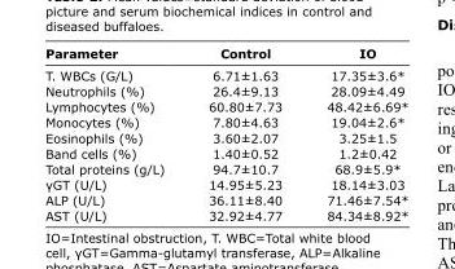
<table><thead><tr><td>Parameter</td><td>Control</td><td>IO</td></tr></thead><tbody><tr><td>T. WBCs (G/L)</td><td>6.71±1.63</td><td>17.35±3.6*</td></tr><tr><td>Neutrophils (%)</td><td>26.4±9.13</td><td>28.09±4.49</td></tr><tr><td>Lymphocytes (%)</td><td>60.80±7.73</td><td>48.42±6.69*</td></tr><tr><td>Monocytes (%)</td><td>7.80±4.63</td><td>19.04±2.6*</td></tr><tr><td>Eosinophils (%)</td><td>3.60±2.07</td><td>3.25±1.5</td></tr><tr><td>Band cells (%)</td><td>1.40±0.52</td><td>1.2±0.42</td></tr><tr><td>Total proteins (g/L)</td><td>94.7±10.7</td><td>68.9±5.9*</td></tr><tr><td>γGT (U/L)</td><td>14.95±5.23</td><td>18.14±3.03</td></tr><tr><td>ALP (U/L)</td><td>36.11±8.40</td><td>71.46±7.54*</td></tr><tr><td>AST (U/L)</td><td>32.92±4.77</td><td>84.34±8.92*</td></tr></tbody></table>